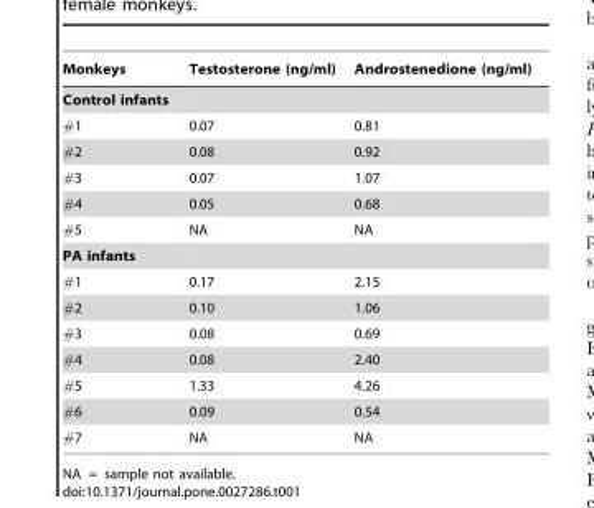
<table><thead><tr><td>Monkeys</td><td>Testosterone (ng/ml)</td><td>Androstenedione (ng/ml)</td></tr></thead><tbody><tr><td colspan="3">Control infants</td></tr><tr><td>#1</td><td>0.07</td><td>0.81</td></tr><tr><td>#2</td><td>0.08</td><td>0.92</td></tr><tr><td>#3</td><td>0.07</td><td>1.07</td></tr><tr><td>#4</td><td>0.05</td><td>0.68</td></tr><tr><td>#5</td><td>NA</td><td>NA</td></tr><tr><td colspan="3">PA infants</td></tr><tr><td>#1</td><td>0.17</td><td>2.15</td></tr><tr><td>#2</td><td>0.10</td><td>1.06</td></tr><tr><td>#3</td><td>0.08</td><td>0.69</td></tr><tr><td>#4</td><td>0.08</td><td>2.40</td></tr><tr><td>#5</td><td>1.33</td><td>4.26</td></tr><tr><td>#6</td><td>0.09</td><td>0.54</td></tr><tr><td>#7</td><td>NA</td><td>NA</td></tr></tbody></table>